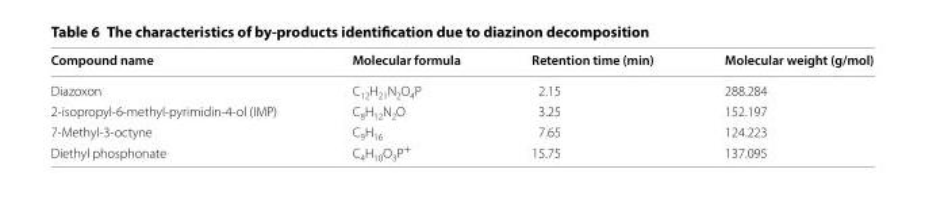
<table><thead><tr><td>Compound name</td><td>Molecular formula</td><td>Retention time (min)</td><td>Molecular weight (g/mol)</td></tr></thead><tbody><tr><td>Diazoxon</td><td>C<sub>12</sub>H<sub>21</sub>N<sub>2</sub>O<sub>4</sub>P</td><td>2.15</td><td>288.284</td></tr><tr><td>2-isopropyl-6-methyl-pyrimidin-4-ol (IMP)</td><td>C<sub>8</sub>H<sub>12</sub>N<sub>2</sub>O</td><td>3.25</td><td>152.197</td></tr><tr><td>7-Methyl-3-octyne</td><td>C<sub>9</sub>H<sub>16</sub></td><td>7.65</td><td>124.223</td></tr><tr><td>Diethyl phosphonate</td><td>C<sub>4</sub>H<sub>10</sub>O<sub>3</sub>P<sup>+</sup></td><td>15.75</td><td>137.095</td></tr></tbody></table>